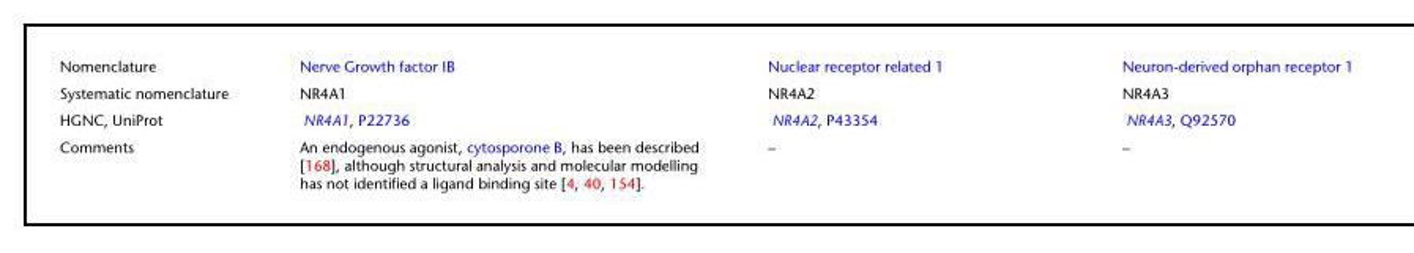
<table><tbody><tr><td>Nomenclature</td><td>Nerve Growth factor IB</td><td>Nuclear receptor related 1</td><td>Neuron-derived orphan receptor 1</td></tr><tr><td>Systematic nomenclature</td><td>NR4A1</td><td>NR4A2</td><td>NR4A3</td></tr><tr><td>HGNC, UniProt</td><td>NR4A1, P22736</td><td>NR4A2, P43354</td><td>NR4A3, Q92570</td></tr><tr><td>Comments</td><td>An endogenous agonist, cytosporone B, has been described [168], although structural analysis and molecular modelling has not identified a ligand binding site [4, 40, 154].</td><td>–</td><td>–</td></tr></tbody></table>